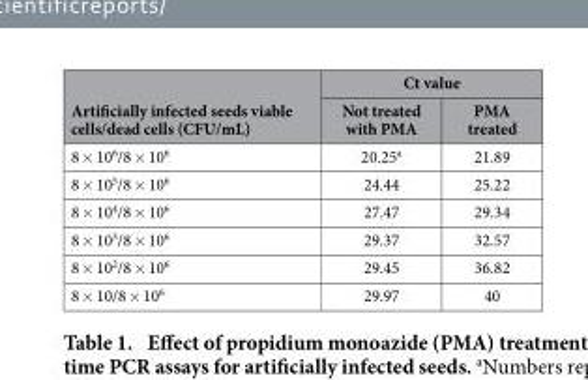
<table><thead><tr><td rowspan="2">Artificially infected seeds viable cells/dead cells (CFU/mL)</td><td colspan="2">Ct value</td></tr><tr><td>Not treated with PMA</td><td>PMA treated</td></tr></thead><tbody><tr><td>8 × 10<sup>6</sup>/8 × 10<sup>6</sup></td><td>20.25<sup>a</sup></td><td>21.89</td></tr><tr><td>8 × 10<sup>5</sup>/8 × 10<sup>6</sup></td><td>24.44</td><td>25.22</td></tr><tr><td>8 × 10<sup>4</sup>/8 × 10<sup>6</sup></td><td>27.47</td><td>29.34</td></tr><tr><td>8 × 10<sup>3</sup>/8 × 10<sup>6</sup></td><td>29.37</td><td>32.57</td></tr><tr><td>8 × 10<sup>2</sup>/8 × 10<sup>6</sup></td><td>29.45</td><td>36.82</td></tr><tr><td>8 × 10/8 × 10<sup>6</sup></td><td>29.97</td><td>40</td></tr></tbody></table>